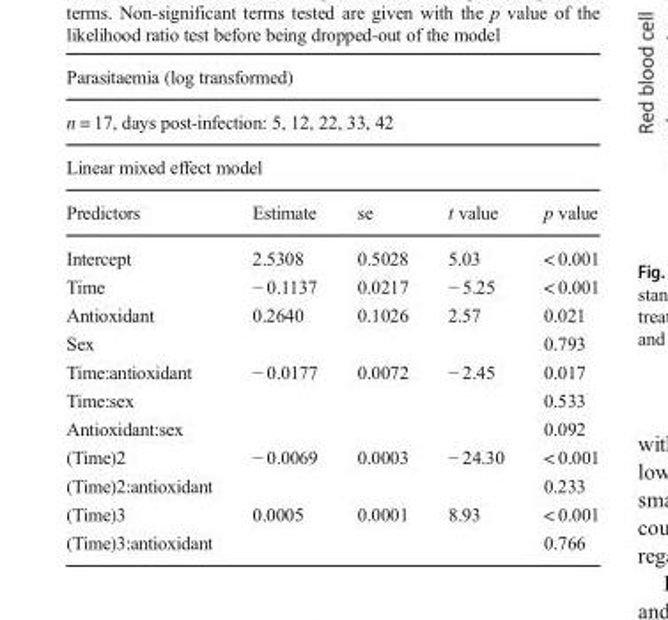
<table><thead><tr><td rowspan="3" colspan="5">Parasitaemia (log transformed) n = 17, days post-infection: 5, 12, 22, 33, 42 Linear mixed effect model</td></tr><tr></tr><tr></tr><tr><td>Predictors</td><td>Estimate</td><td>se</td><td>t value</td><td>p value</td></tr></thead><tbody><tr><td>Intercept</td><td>2.5308</td><td>0.5028</td><td>5.03</td><td>&lt; 0.001</td></tr><tr><td>Time</td><td>− 0.1137</td><td>0.0217</td><td>− 5.25</td><td>&lt; 0.001</td></tr><tr><td>Antioxidant</td><td>0.2640</td><td>0.1026</td><td>2.57</td><td>0.021</td></tr><tr><td>Sex</td><td></td><td></td><td></td><td>0.793</td></tr><tr><td>Time:antioxidant</td><td>− 0.0177</td><td>0.0072</td><td>− 2.45</td><td>0.017</td></tr><tr><td>Time:sex</td><td></td><td></td><td></td><td>0.533</td></tr><tr><td>Antioxidant:sex</td><td></td><td></td><td></td><td>0.092</td></tr><tr><td>(Time)2</td><td>− 0.0069</td><td>0.0003</td><td>− 24.30</td><td>&lt; 0.001</td></tr><tr><td>(Time)2:antioxidant</td><td></td><td></td><td></td><td>0.233</td></tr><tr><td>(Time)3</td><td>0.0005</td><td>0.0001</td><td>8.93</td><td>&lt; 0.001</td></tr><tr><td>(Time)3:antioxidant</td><td></td><td></td><td></td><td>0.766</td></tr></tbody></table>